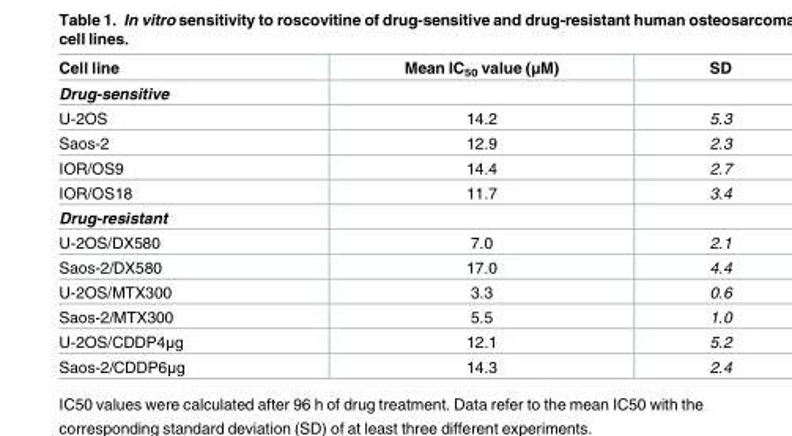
<table><thead><tr><td>Cell line</td><td>Mean IC<sub>50</sub> value (μM)</td><td>SD</td></tr></thead><tbody><tr><td colspan="3">Drug-sensitive</td></tr><tr><td>U-2OS</td><td>14.2</td><td>5.3</td></tr><tr><td>Saos-2</td><td>12.9</td><td>2.3</td></tr><tr><td>IOR/OS9</td><td>14.4</td><td>2.7</td></tr><tr><td>IOR/OS18</td><td>11.7</td><td>3.4</td></tr><tr><td colspan="3">Drug-resistant</td></tr><tr><td>U-2OS/DX580</td><td>7.0</td><td>2.1</td></tr><tr><td>Saos-2/DX580</td><td>17.0</td><td>4.4</td></tr><tr><td>U-2OS/MTX300</td><td>3.3</td><td>0.6</td></tr><tr><td>Saos-2/MTX300</td><td>5.5</td><td>1.0</td></tr><tr><td>U-2OS/CDDP4μg</td><td>12.1</td><td>5.2</td></tr><tr><td>Saos-2/CDDP6μg</td><td>14.3</td><td>2.4</td></tr></tbody></table>